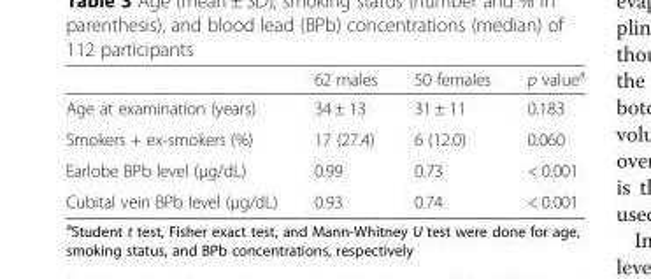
<table><thead><tr><td></td><td>62 males</td><td>50 females</td><td>p value<sup>a</sup></td></tr></thead><tbody><tr><td>Age at examination (years)</td><td>34 ± 13</td><td>31 ± 11</td><td>0.183</td></tr><tr><td>Smokers + ex-smokers (%)</td><td>17 (27.4)</td><td>6 (12.0)</td><td>0.060</td></tr><tr><td>Earlobe BPb level (μg/dL)</td><td>0.99</td><td>0.73</td><td>&lt; 0.001</td></tr><tr><td>Cubital vein BPb level (μg/dL)</td><td>0.93</td><td>0.74</td><td>&lt; 0.001</td></tr></tbody></table>